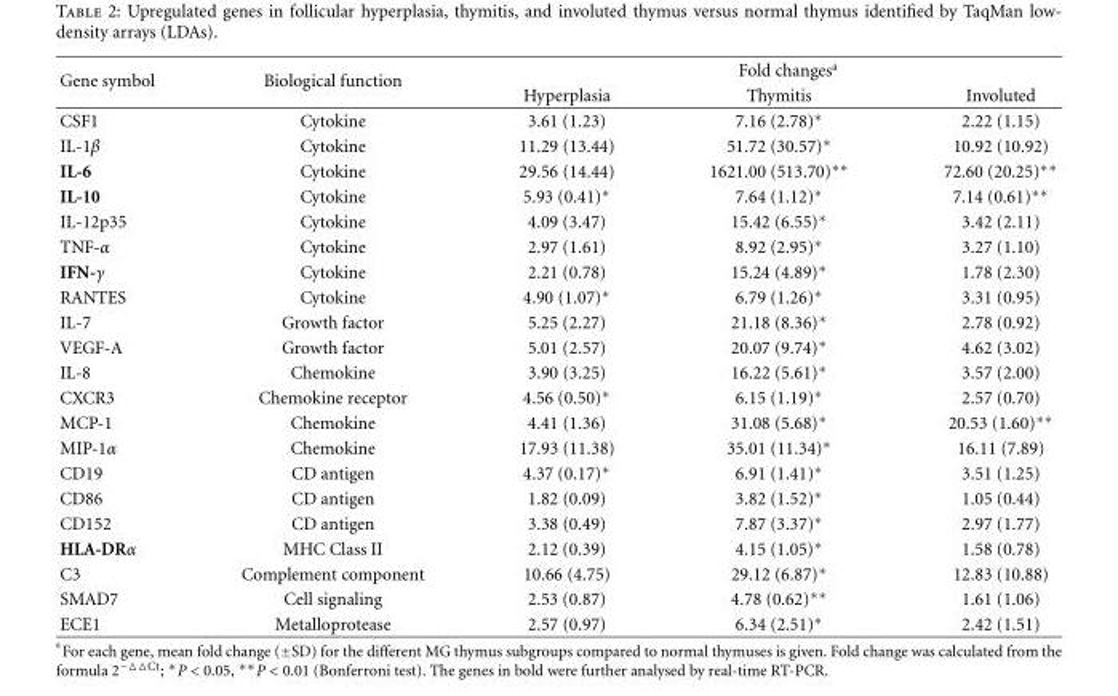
<table><thead><tr><td rowspan="2">Gene symbol</td><td rowspan="2">Biological function</td><td colspan="3">Fold changes<sup>a</sup></td></tr><tr><td>Hyperplasia</td><td>Thymitis</td><td>Involuted</td></tr></thead><tbody><tr><td>CSF1</td><td>Cytokine</td><td>3.61 (1.23)</td><td>7.16 (2.78)∗</td><td>2.22 (1.15)</td></tr><tr><td>IL-1β</td><td>Cytokine</td><td>11.29 (13.44)</td><td>51.72 (30.57)∗</td><td>10.92 (10.92)</td></tr><tr><td>IL-6</td><td>Cytokine</td><td>29.56 (14.44)</td><td>1621.00 (513.70)∗∗</td><td>72.60 (20.25)∗∗</td></tr><tr><td>IL-10</td><td>Cytokine</td><td>5.93 (0.41)∗</td><td>7.64 (1.12)∗</td><td>7.14 (0.61)∗∗</td></tr><tr><td>IL-12p35</td><td>Cytokine</td><td>4.09 (3.47)</td><td>15.42 (6.55)∗</td><td>3.42 (2.11)</td></tr><tr><td>TNF-α</td><td>Cytokine</td><td>2.97 (1.61)</td><td>8.92 (2.95)∗</td><td>3.27 (1.10)</td></tr><tr><td>IFN-γ</td><td>Cytokine</td><td>2.21 (0.78)</td><td>15.24 (4.89)∗</td><td>1.78 (2.30)</td></tr><tr><td>RANTES</td><td>Cytokine</td><td>4.90 (1.07)∗</td><td>6.79 (1.26)∗</td><td>3.31 (0.95)</td></tr><tr><td>IL-7</td><td>Growth factor</td><td>5.25 (2.27)</td><td>21.18 (8.36)∗</td><td>2.78 (0.92)</td></tr><tr><td>VEGF-A</td><td>Growth factor</td><td>5.01 (2.57)</td><td>20.07 (9.74)∗</td><td>4.62 (3.02)</td></tr><tr><td>IL-8</td><td>Chemokine</td><td>3.90 (3.25)</td><td>16.22 (5.61)∗</td><td>3.57 (2.00)</td></tr><tr><td>CXCR3</td><td>Chemokine receptor</td><td>4.56 (0.50)∗</td><td>6.15 (1.19)∗</td><td>2.57 (0.70)</td></tr><tr><td>MCP-1</td><td>Chemokine</td><td>4.41 (1.36)</td><td>31.08 (5.68)∗</td><td>20.53 (1.60)∗∗</td></tr><tr><td>MIP-1α</td><td>Chemokine</td><td>17.93 (11.38)</td><td>35.01 (11.34)∗</td><td>16.11 (7.89)</td></tr><tr><td>CD19</td><td>CD antigen</td><td>4.37 (0.17)∗</td><td>6.91 (1.41)∗</td><td>3.51 (1.25)</td></tr><tr><td>CD86</td><td>CD antigen</td><td>1.82 (0.09)</td><td>3.82 (1.52)∗</td><td>1.05 (0.44)</td></tr><tr><td>CD152</td><td>CD antigen</td><td>3.38 (0.49)</td><td>7.87 (3.37)∗</td><td>2.97 (1.77)</td></tr><tr><td>HLA-DRα</td><td>MHC Class II</td><td>2.12 (0.39)</td><td>4.15 (1.05)∗</td><td>1.58 (0.78)</td></tr><tr><td>C3</td><td>Complement component</td><td>10.66 (4.75)</td><td>29.12 (6.87)∗</td><td>12.83 (10.88)</td></tr><tr><td>SMAD7</td><td>Cell signaling</td><td>2.53 (0.87)</td><td>4.78 (0.62)∗∗</td><td>1.61 (1.06)</td></tr><tr><td>ECE1</td><td>Metalloprotease</td><td>2.57 (0.97)</td><td>6.34 (2.51)∗</td><td>2.42 (1.51)</td></tr></tbody></table>